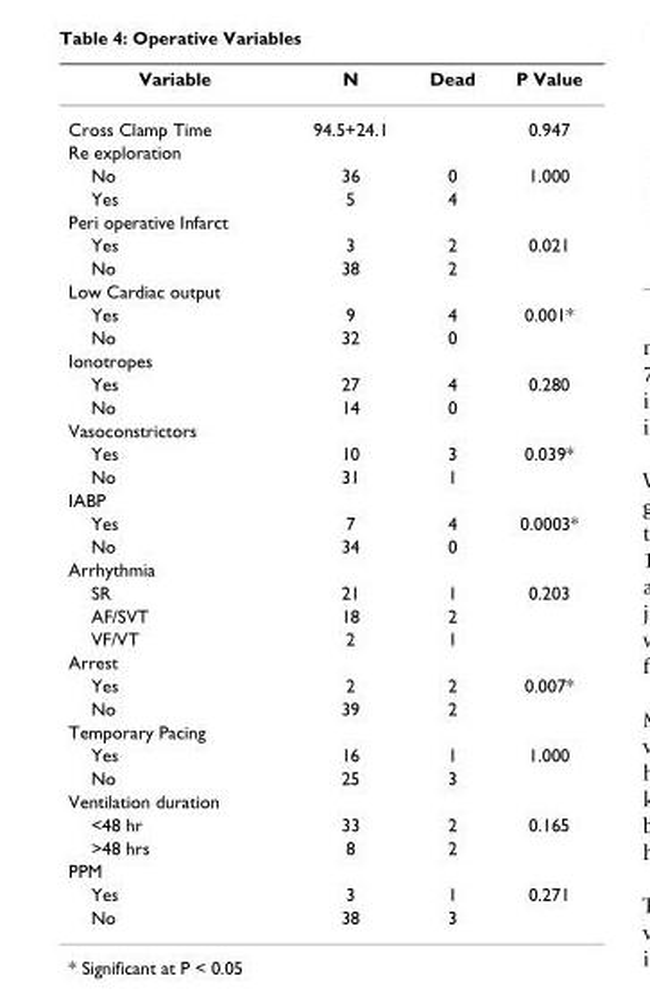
<table><thead><tr><td>Variable</td><td>N</td><td>Dead</td><td>P Value</td></tr></thead><tbody><tr><td>Cross Clamp Time</td><td>94.5+24.1</td><td></td><td>0.947</td></tr><tr><td colspan="4">Re exploration</td></tr><tr><td>No</td><td>36</td><td>0</td><td>1.000</td></tr><tr><td>Yes</td><td>5</td><td>4</td><td></td></tr><tr><td colspan="4">Peri operative Infarct</td></tr><tr><td>Yes</td><td>3</td><td>2</td><td>0.021</td></tr><tr><td>No</td><td>38</td><td>2</td><td></td></tr><tr><td colspan="4">Low Cardiac output</td></tr><tr><td>Yes</td><td>9</td><td>4</td><td>0.001*</td></tr><tr><td>No</td><td>32</td><td>0</td><td></td></tr><tr><td colspan="4">Ionotropes</td></tr><tr><td>Yes</td><td>27</td><td>4</td><td>0.280</td></tr><tr><td>No</td><td>14</td><td>0</td><td></td></tr><tr><td colspan="4">Vasoconstrictors</td></tr><tr><td>Yes</td><td>10</td><td>3</td><td>0.039*</td></tr><tr><td>No</td><td>31</td><td>1</td><td></td></tr><tr><td colspan="4">IABP</td></tr><tr><td>Yes</td><td>7</td><td>4</td><td>0.0003*</td></tr><tr><td>No</td><td>34</td><td>0</td><td></td></tr><tr><td colspan="4">Arrhythmia</td></tr><tr><td>SR</td><td>21</td><td>1</td><td>0.203</td></tr><tr><td>AF/SVT</td><td>18</td><td>2</td><td></td></tr><tr><td>VF/VT</td><td>2</td><td>1</td><td></td></tr><tr><td colspan="4">Arrest</td></tr><tr><td>Yes</td><td>2</td><td>2</td><td>0.007*</td></tr><tr><td>No</td><td>39</td><td>2</td><td></td></tr><tr><td colspan="4">Temporary Pacing</td></tr><tr><td>Yes</td><td>16</td><td>1</td><td>1.000</td></tr><tr><td>No</td><td>25</td><td>3</td><td></td></tr><tr><td colspan="4">Ventilation duration</td></tr><tr><td>&lt;48 hr</td><td>33</td><td>2</td><td>0.165</td></tr><tr><td>&gt;48 hrs</td><td>8</td><td>2</td><td></td></tr><tr><td colspan="4">PPM</td></tr><tr><td>Yes</td><td>3</td><td>1</td><td>0.271</td></tr><tr><td>No</td><td>38</td><td>3</td><td></td></tr></tbody></table>